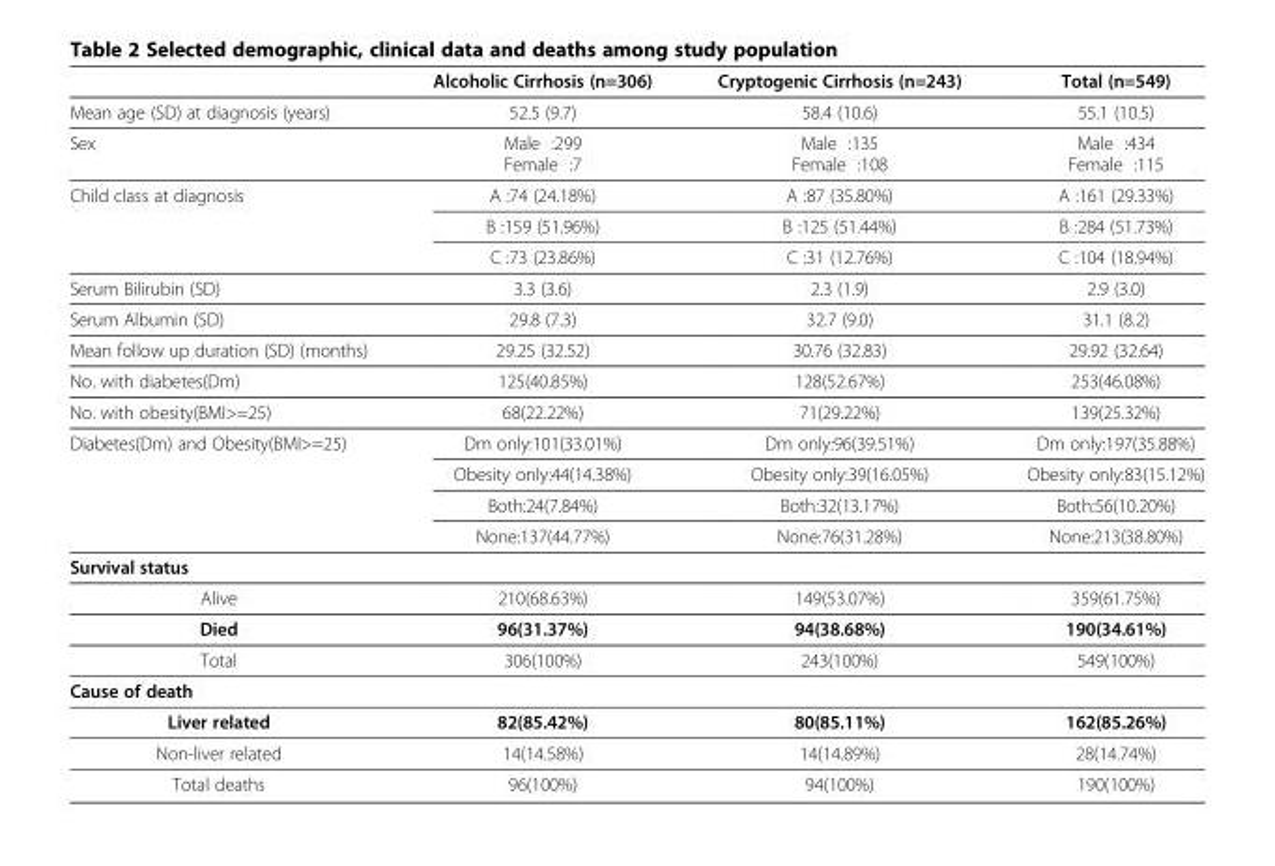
<table><thead><tr><td></td><td>Alcoholic Cirrhosis (n=306)</td><td>Cryptogenic Cirrhosis (n=243)</td><td>Total (n=549)</td></tr></thead><tbody><tr><td>Mean age (SD) at diagnosis (years)</td><td>52.5 (9.7)</td><td>58.4 (10.6)</td><td>55.1 (10.5)</td></tr><tr><td rowspan="2">Sex</td><td>Male :299</td><td>Male :135</td><td>Male :434</td></tr><tr><td>Female :7</td><td>Female :108</td><td>Female :115</td></tr><tr><td rowspan="3">Child class at diagnosis</td><td>A :74 (24.18%)</td><td>A :87 (35.80%)</td><td>A :161 (29.33%)</td></tr><tr><td>B :159 (51.96%)</td><td>B :125 (51.44%)</td><td>B :284 (51.73%)</td></tr><tr><td>C :73 (23.86%)</td><td>C :31 (12.76%)</td><td>C :104 (18.94%)</td></tr><tr><td>Serum Bilirubin (SD)</td><td>3.3 (3.6)</td><td>2.3 (1.9)</td><td>2.9 (3.0)</td></tr><tr><td>Serum Albumin (SD)</td><td>29.8 (7.3)</td><td>32.7 (9.0)</td><td>31.1 (8.2)</td></tr><tr><td>Mean follow up duration (SD) (months)</td><td>29.25 (32.52)</td><td>30.76 (32.83)</td><td>29.92 (32.64)</td></tr><tr><td>No. with diabetes(Dm)</td><td>125(40.85%)</td><td>128(52.67%)</td><td>253(46.08%)</td></tr><tr><td>No. with obesity(BMI&gt;=25)</td><td>68(22.22%)</td><td>71(29.22%)</td><td>139(25.32%)</td></tr><tr><td rowspan="4">Diabetes(Dm) and Obesity(BMI&gt;=25)</td><td>Dm only:101(33.01%)</td><td>Dm only:96(39.51%)</td><td>Dm only:197(35.88%)</td></tr><tr><td>Obesity only:44(14.38%)</td><td>Obesity only:39(16.05%)</td><td>Obesity only:83(15.12%)</td></tr><tr><td>Both:24(7.84%)</td><td>Both:32(13.17%)</td><td>Both:56(10.20%)</td></tr><tr><td>None:137(44.77%)</td><td>None:76(31.28%)</td><td>None:213(38.80%)</td></tr><tr><td colspan="4">Survival status</td></tr><tr><td>Alive</td><td>210(68.63%)</td><td>149(53.07%)</td><td>359(61.75%)</td></tr><tr><td>Died</td><td>96(31.37%)</td><td>94(38.68%)</td><td>190(34.61%)</td></tr><tr><td>Total</td><td>306(100%)</td><td>243(100%)</td><td>549(100%)</td></tr><tr><td colspan="4">Cause of death</td></tr><tr><td>Liver related</td><td>82(85.42%)</td><td>80(85.11%)</td><td>162(85.26%)</td></tr><tr><td>Non-liver related</td><td>14(14.58%)</td><td>14(14.89%)</td><td>28(14.74%)</td></tr><tr><td>Total deaths</td><td>96(100%)</td><td>94(100%)</td><td>190(100%)</td></tr></tbody></table>